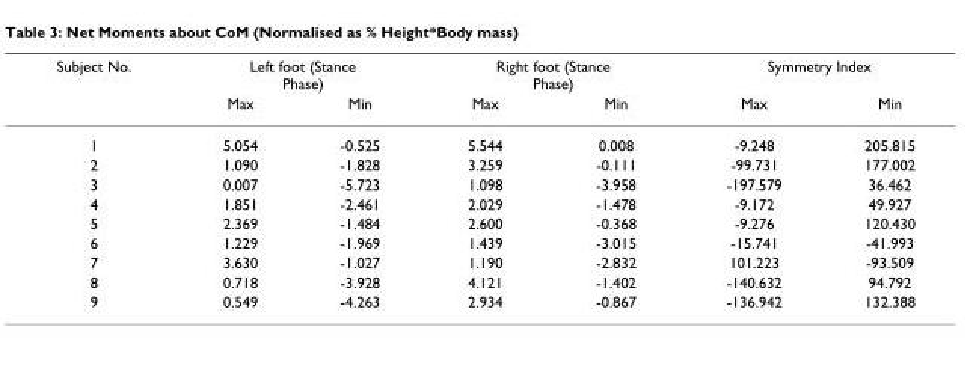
<table><thead><tr><td rowspan="2">Subject No.</td><td colspan="2">Left foot (Stance Phase)</td><td colspan="2">Right foot (Stance Phase)</td><td colspan="2">Symmetry Index</td></tr><tr><td>Max</td><td>Min</td><td>Max</td><td>Min</td><td>Max</td><td>Min</td></tr></thead><tbody><tr><td>1</td><td>5.054</td><td>-0.525</td><td>5.544</td><td>0.008</td><td>-9.248</td><td>205.815</td></tr><tr><td>2</td><td>1.090</td><td>-1.828</td><td>3.259</td><td>-0.111</td><td>-99.731</td><td>177.002</td></tr><tr><td>3</td><td>0.007</td><td>-5.723</td><td>1.098</td><td>-3.958</td><td>-197.579</td><td>36.462</td></tr><tr><td>4</td><td>1.851</td><td>-2.461</td><td>2.029</td><td>-1.478</td><td>-9.172</td><td>49.927</td></tr><tr><td>5</td><td>2.369</td><td>-1.484</td><td>2.600</td><td>-0.368</td><td>-9.276</td><td>120.430</td></tr><tr><td>6</td><td>1.229</td><td>-1.969</td><td>1.439</td><td>-3.015</td><td>-15.741</td><td>-41.993</td></tr><tr><td>7</td><td>3.630</td><td>-1.027</td><td>1.190</td><td>-2.832</td><td>101.223</td><td>-93.509</td></tr><tr><td>8</td><td>0.718</td><td>-3.928</td><td>4.121</td><td>-1.402</td><td>-140.632</td><td>94.792</td></tr><tr><td>9</td><td>0.549</td><td>-4.263</td><td>2.934</td><td>-0.867</td><td>-136.942</td><td>132.388</td></tr></tbody></table>